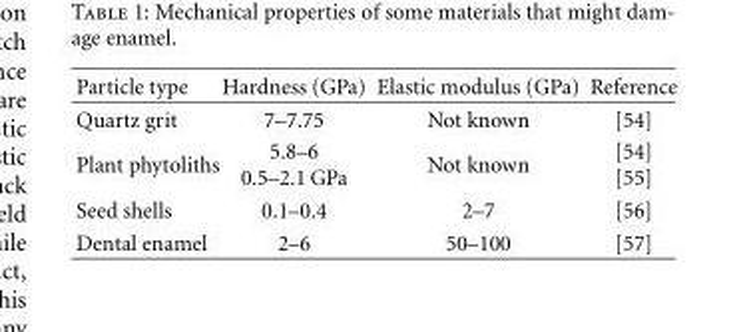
<table><thead><tr><td>Particle type</td><td>Hardness (GPa)</td><td>Elastic modulus (GPa)</td><td>Reference</td></tr></thead><tbody><tr><td>Quartz grit</td><td>7–7.75</td><td>Not known</td><td>[54]</td></tr><tr><td>Plant phytoliths</td><td>5.8–6 0.5–2.1 GPa</td><td>Not known</td><td>[54] [55]</td></tr><tr><td>Seed shells</td><td>0.1–0.4</td><td>2–7</td><td>[56]</td></tr><tr><td>Dental enamel</td><td>2–6</td><td>50–100</td><td>[57]</td></tr></tbody></table>